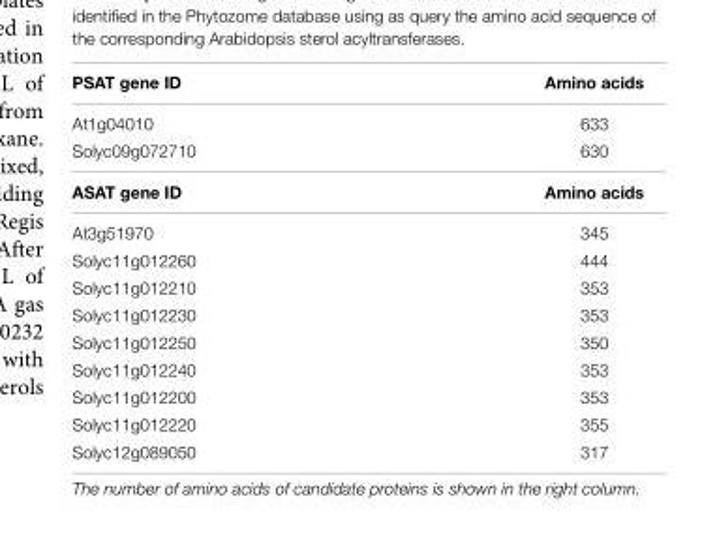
<table><thead><tr><td>PSAT gene ID</td><td>Amino acids</td></tr></thead><tbody><tr><td>At1g04010</td><td>633</td></tr><tr><td>Solyc09g072710</td><td>630</td></tr><tr><td>ASAT gene ID</td><td>Amino acids</td></tr><tr><td>At3g51970</td><td>345</td></tr><tr><td>Solyc11g012260</td><td>444</td></tr><tr><td>Solyc11g012210</td><td>353</td></tr><tr><td>Solyc11g012230</td><td>353</td></tr><tr><td>Solyc11g012250</td><td>350</td></tr><tr><td>Solyc11g012240</td><td>353</td></tr><tr><td>Solyc11g012200</td><td>353</td></tr><tr><td>Solyc11g012220</td><td>355</td></tr><tr><td>Solyc12g089050</td><td>317</td></tr></tbody></table>